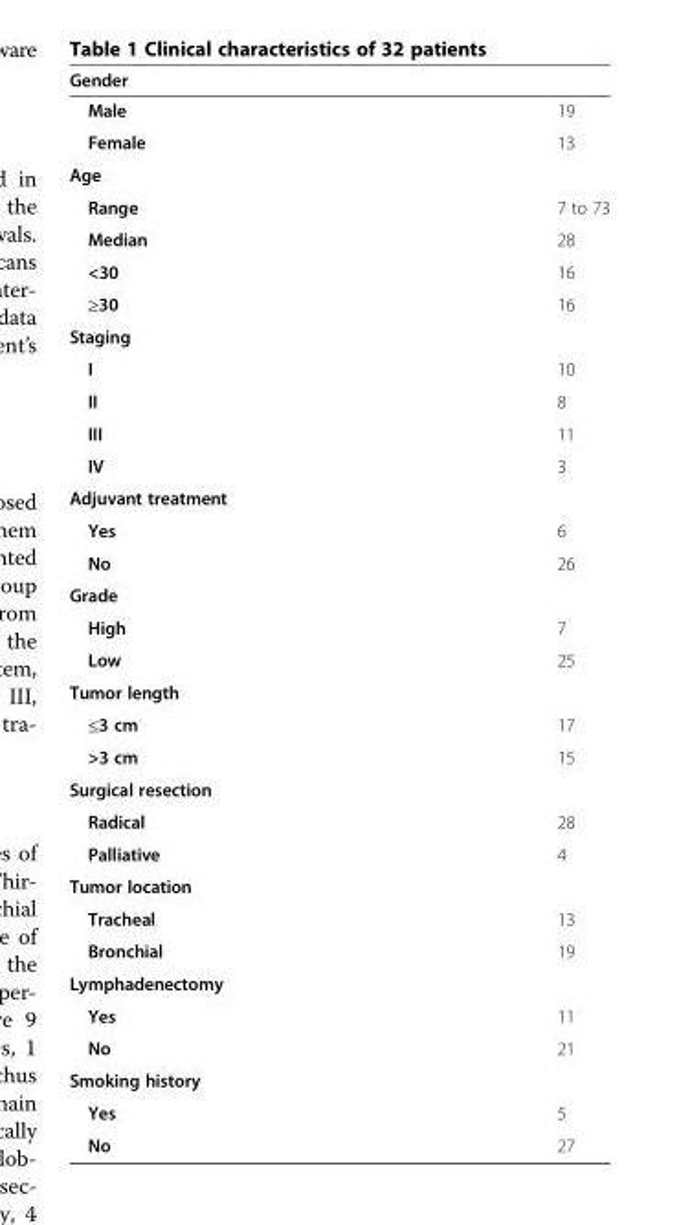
<table><thead><tr><td colspan="2">Gender</td></tr><tr><td>Male</td><td>19</td></tr></thead><tbody><tr><td>Female</td><td>13</td></tr><tr><td colspan="2">Age</td></tr><tr><td>Range</td><td>7 to 73</td></tr><tr><td>Median</td><td>28</td></tr><tr><td>&lt;30</td><td>16</td></tr><tr><td>≥30</td><td>16</td></tr><tr><td colspan="2">Staging</td></tr><tr><td>I</td><td>10</td></tr><tr><td>II</td><td>8</td></tr><tr><td>III</td><td>11</td></tr><tr><td>IV</td><td>3</td></tr><tr><td colspan="2">Adjuvant treatment</td></tr><tr><td>Yes</td><td>6</td></tr><tr><td>No</td><td>26</td></tr><tr><td colspan="2">Grade</td></tr><tr><td>High</td><td>7</td></tr><tr><td>Low</td><td>25</td></tr><tr><td colspan="2">Tumor length</td></tr><tr><td>≤3 cm</td><td>17</td></tr><tr><td>&gt;3 cm</td><td>15</td></tr><tr><td colspan="2">Surgical resection</td></tr><tr><td>Radical</td><td>28</td></tr><tr><td>Palliative</td><td>4</td></tr><tr><td colspan="2">Tumor location</td></tr><tr><td>Tracheal</td><td>13</td></tr><tr><td>Bronchial</td><td>19</td></tr><tr><td colspan="2">Lymphadenectomy</td></tr><tr><td>Yes</td><td>11</td></tr><tr><td>No</td><td>21</td></tr><tr><td colspan="2">Smoking history</td></tr><tr><td>Yes</td><td>5</td></tr><tr><td>No</td><td>27</td></tr></tbody></table>